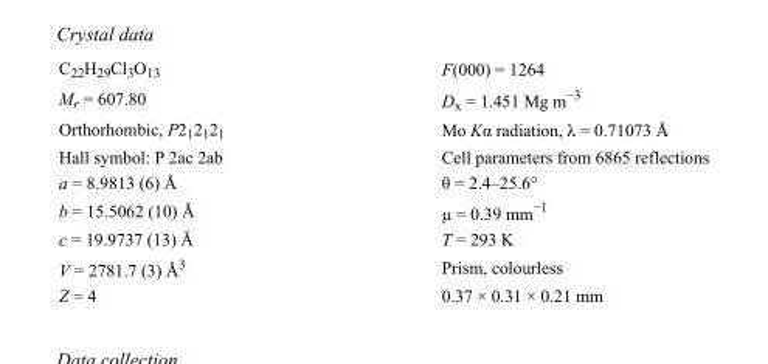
<table><tbody><tr><td>C<sub>22</sub>H<sub>29</sub>Cl<sub>3</sub>O<sub>13</sub></td><td>F(000) = 1264</td></tr><tr><td>M<sub>r</sub> = 607.80</td><td>D<sub>x</sub> = 1.451 Mg m<sup>−3</sup></td></tr><tr><td>Orthorhombic, P2<sub>1</sub>2<sub>1</sub>2<sub>1</sub></td><td>Mo Kα radiation, λ = 0.71073 Å</td></tr><tr><td>Hall symbol: P 2ac 2ab</td><td>Cell parameters from 6865 reflections</td></tr><tr><td>a = 8.9813 (6) Å</td><td>θ = 2.4–25.6°</td></tr><tr><td>b = 15.5062 (10) Å</td><td>µ = 0.39 mm<sup>−1</sup></td></tr><tr><td>c = 19.9737 (13) Å</td><td>T = 293 K</td></tr><tr><td>V = 2781.7 (3) Å<sup>3</sup></td><td>Prism, colourless</td></tr><tr><td>Z = 4</td><td>0.37 × 0.31 × 0.21 mm</td></tr></tbody></table>